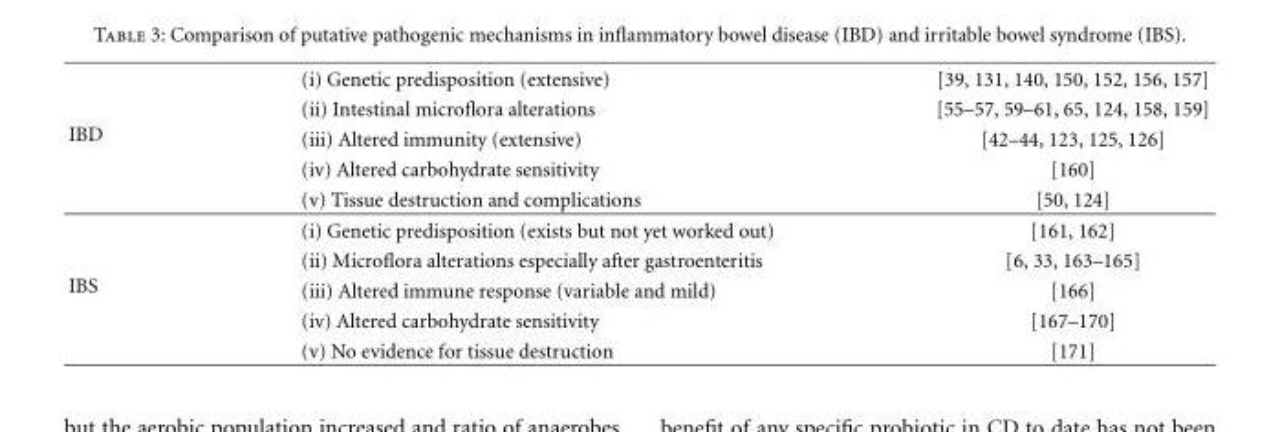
<table><tbody><tr><td rowspan="5">IBD</td><td>(i) Genetic predisposition (extensive)</td><td>[39, 131, 140, 150, 152, 156, 157]</td></tr><tr><td>(ii) Intestinal microflora alterations</td><td>[55–57, 59–61, 65, 124, 158, 159]</td></tr><tr><td>(iii) Altered immunity (extensive)</td><td>[42–44, 123, 125, 126]</td></tr><tr><td>(iv) Altered carbohydrate sensitivity</td><td>[160]</td></tr><tr><td>(v) Tissue destruction and complications</td><td>[50, 124]</td></tr><tr><td rowspan="5">IBS</td><td>(i) Genetic predisposition (exists but not yet worked out)</td><td>[161, 162]</td></tr><tr><td>(ii) Microflora alterations especially after gastroenteritis</td><td>[6, 33, 163–165]</td></tr><tr><td>(iii) Altered immune response (variable and mild)</td><td>[166]</td></tr><tr><td>(iv) Altered carbohydrate sensitivity</td><td>[167–170]</td></tr><tr><td>(v) No evidence for tissue destruction</td><td>[171]</td></tr></tbody></table>